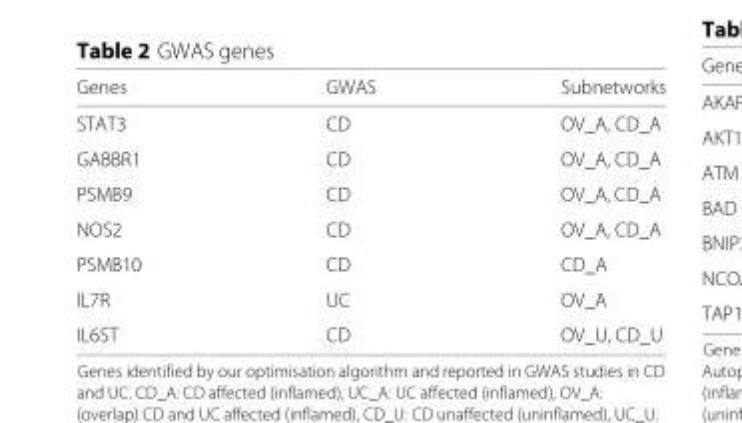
<table><thead><tr><td>Genes</td><td>GWAS</td><td>Subnetworks</td></tr></thead><tbody><tr><td>STAT3</td><td>CD</td><td>OV_A, CD_A</td></tr><tr><td>GABBR1</td><td>CD</td><td>OV_A, CD_A</td></tr><tr><td>PSMB9</td><td>CD</td><td>OV_A, CD_A</td></tr><tr><td>NOS2</td><td>CD</td><td>OV_A, CD_A</td></tr><tr><td>PSMB10</td><td>CD</td><td>CD_A</td></tr><tr><td>IL7R</td><td>UC</td><td>OV_A</td></tr><tr><td>IL6ST</td><td>CD</td><td>OV_U, CD_U</td></tr></tbody></table>